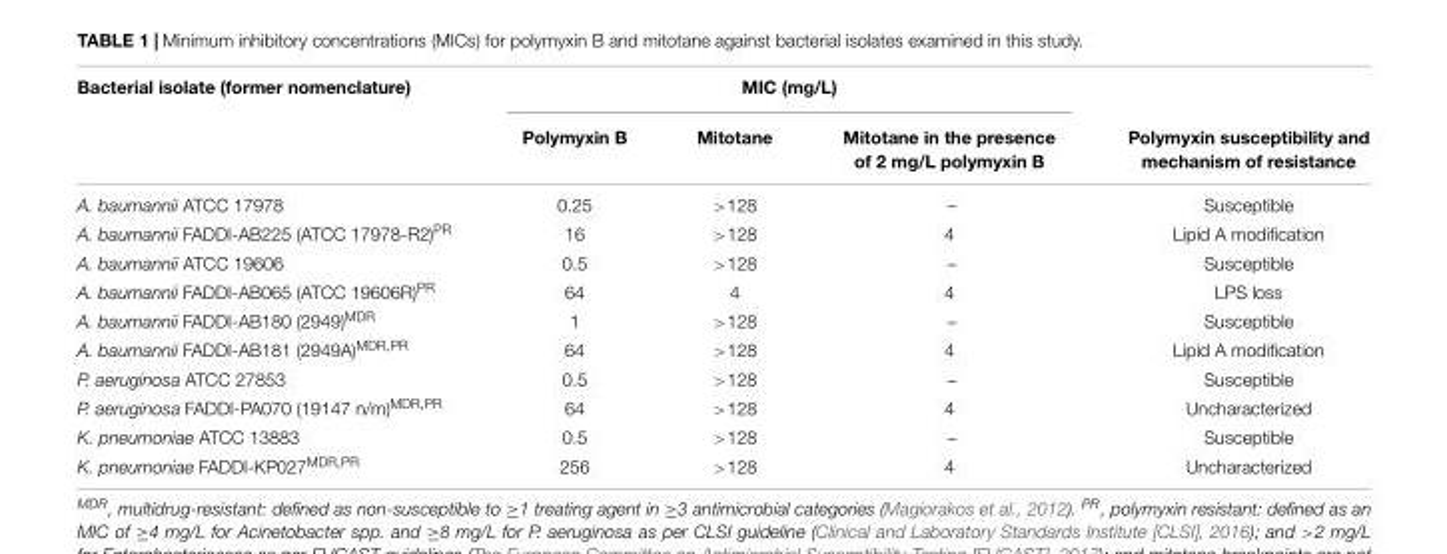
<table><thead><tr><td rowspan="2">Bacterial isolate (former nomenclature)</td><td colspan="3">MIC (mg/L)</td><td rowspan="2">Polymyxin susceptibility and mechanism of resistance</td></tr><tr><td>Polymyxin B</td><td>Mitotane</td><td>Mitotane in the presence of 2 mg/L polymyxin B</td></tr></thead><tbody><tr><td>A. baumannii ATCC 17978</td><td>0.25</td><td>&gt;128</td><td>–</td><td>Susceptible</td></tr><tr><td>A. baumannii FADDI-AB225 (ATCC 17978-R2)<sup>PR</sup></td><td>16</td><td>&gt;128</td><td>4</td><td>Lipid A modification</td></tr><tr><td>A. baumannii ATCC 19606</td><td>0.5</td><td>&gt;128</td><td>–</td><td>Susceptible</td></tr><tr><td>A. baumannii FADDI-AB065 (ATCC 19606R)<sup>PR</sup></td><td>64</td><td>4</td><td>4</td><td>LPS loss</td></tr><tr><td>A. baumannii FADDI-AB180 (2949)<sup>MDR</sup></td><td>1</td><td>&gt;128</td><td>–</td><td>Susceptible</td></tr><tr><td>A. baumannii FADDI-AB181 (2949A)<sup>MDR,PR</sup></td><td>64</td><td>&gt;128</td><td>4</td><td>Lipid A modification</td></tr><tr><td>P. aeruginosa ATCC 27853</td><td>0.5</td><td>&gt;128</td><td>–</td><td>Susceptible</td></tr><tr><td>P. aeruginosa FADDI-PA070 (19147 n/m)<sup>MDR,PR</sup></td><td>64</td><td>&gt;128</td><td>4</td><td>Uncharacterized</td></tr><tr><td>K. pneumoniae ATCC 13883</td><td>0.5</td><td>&gt;128</td><td>–</td><td>Susceptible</td></tr><tr><td>K. pneumoniae FADDI-KP027<sup>MDR,PR</sup></td><td>256</td><td>&gt;128</td><td>4</td><td>Uncharacterized</td></tr></tbody></table>